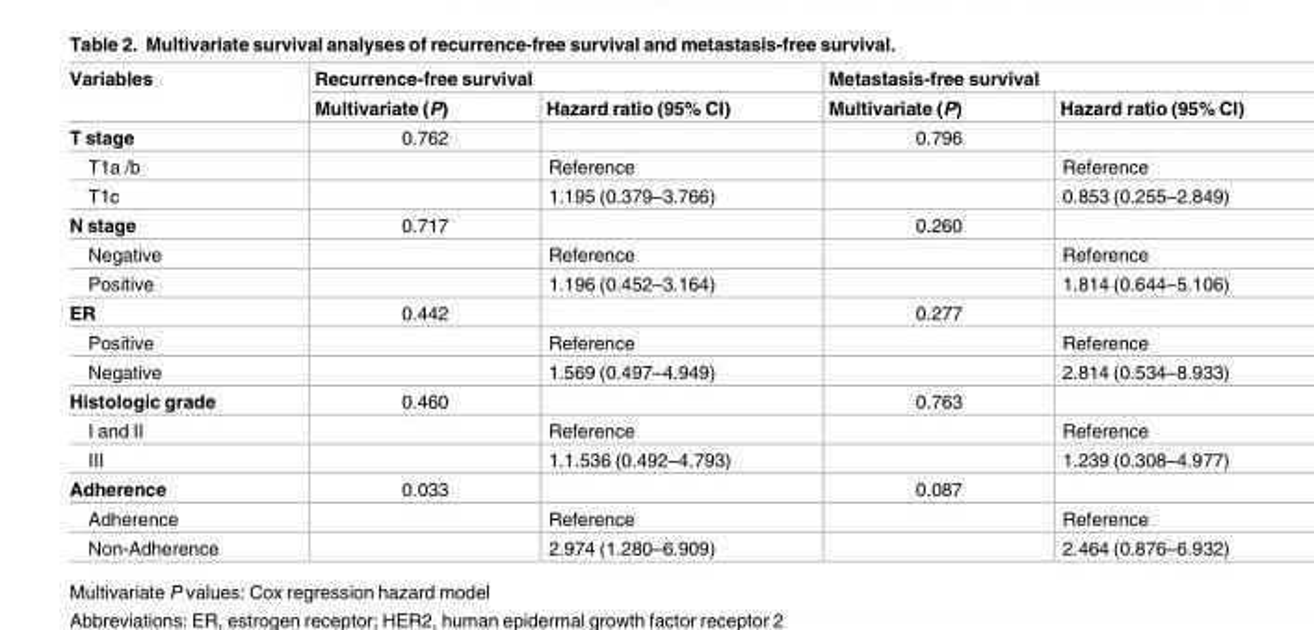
<table><thead><tr><td rowspan="2">Variables</td><td colspan="2">Recurrence-free survival</td><td colspan="2">Metastasis-free survival</td></tr><tr><td>Multivariate (P)</td><td>Hazard ratio (95% CI)</td><td>Multivariate (P)</td><td>Hazard ratio (95% CI)</td></tr></thead><tbody><tr><td>T stage</td><td>0.762</td><td></td><td>0.796</td><td></td></tr><tr><td>T1a /b</td><td></td><td>Reference</td><td></td><td>Reference</td></tr><tr><td>T1c</td><td></td><td>1.195 (0.379–3.766)</td><td></td><td>0.853 (0.255–2.849)</td></tr><tr><td>N stage</td><td>0.717</td><td></td><td>0.260</td><td></td></tr><tr><td>Negative</td><td></td><td>Reference</td><td></td><td>Reference</td></tr><tr><td>Positive</td><td></td><td>1.196 (0.452–3.164)</td><td></td><td>1.814 (0.644–5.106)</td></tr><tr><td>ER</td><td>0.442</td><td></td><td>0.277</td><td></td></tr><tr><td>Positive</td><td></td><td>Reference</td><td></td><td>Reference</td></tr><tr><td>Negative</td><td></td><td>1.569 (0.497–4.949)</td><td></td><td>2.814 (0.534–8.933)</td></tr><tr><td>Histologic grade</td><td>0.460</td><td></td><td>0.763</td><td></td></tr><tr><td>I and II</td><td></td><td>Reference</td><td></td><td>Reference</td></tr><tr><td>III</td><td></td><td>1.1.536 (0.492–4.793)</td><td></td><td>1.239 (0.308–4.977)</td></tr><tr><td>Adherence</td><td>0.033</td><td></td><td>0.087</td><td></td></tr><tr><td>Adherence</td><td></td><td>Reference</td><td></td><td>Reference</td></tr><tr><td>Non-Adherence</td><td></td><td>2.974 (1.280–6.909)</td><td></td><td>2.464 (0.876–6.932)</td></tr></tbody></table>